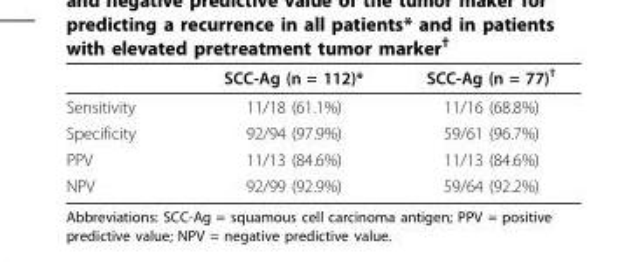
<table><thead><tr><td></td><td>SCC-Ag (n = 112)*</td><td>SCC-Ag (n = 77)<sup>†</sup></td></tr></thead><tbody><tr><td>Sensitivity</td><td>11/18 (61.1%)</td><td>11/16 (68.8%)</td></tr><tr><td>Specificity</td><td>92/94 (97.9%)</td><td>59/61 (96.7%)</td></tr><tr><td>PPV</td><td>11/13 (84.6%)</td><td>11/13 (84.6%)</td></tr><tr><td>NPV</td><td>92/99 (92.9%)</td><td>59/64 (92.2%)</td></tr></tbody></table>